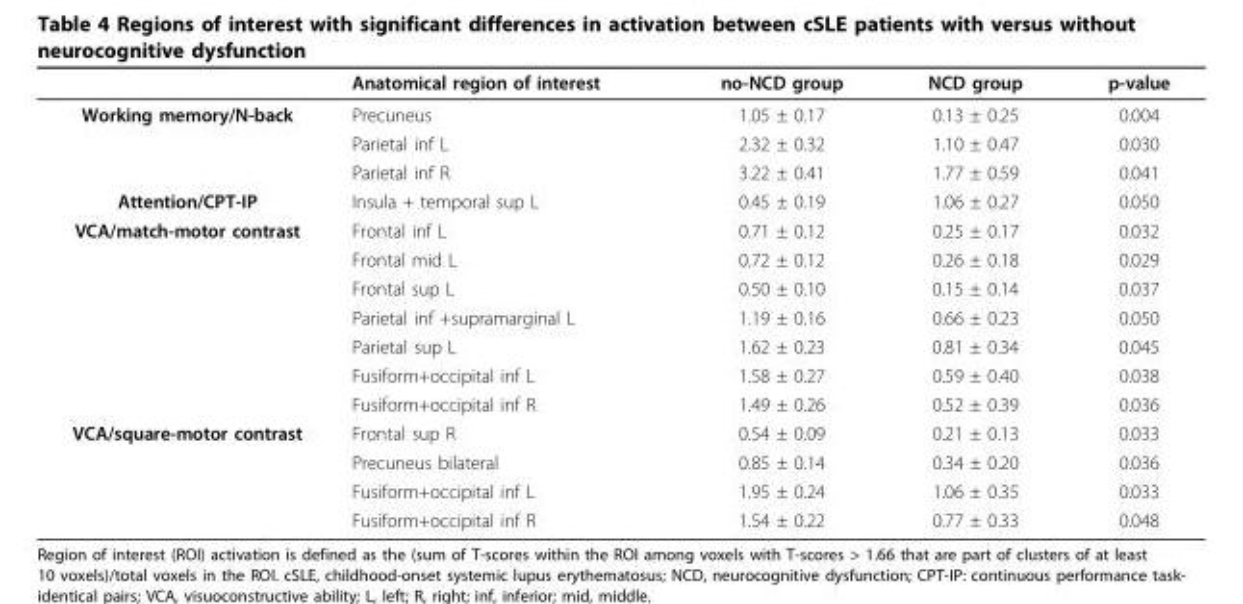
<table><thead><tr><td></td><td>Anatomical region of interest</td><td>no-NCD group</td><td>NCD group</td><td>p-value</td></tr></thead><tbody><tr><td rowspan="3">Working memory/N-back</td><td>Precuneus</td><td>1.05 ± 0.17</td><td>0.13 ± 0.25</td><td>0.004</td></tr><tr><td>Parietal inf L</td><td>2.32 ± 0.32</td><td>1.10 ± 0.47</td><td>0.030</td></tr><tr><td>Parietal inf R</td><td>3.22 ± 0.41</td><td>1.77 ± 0.59</td><td>0.041</td></tr><tr><td>Attention/CPT-IP</td><td>Insula + temporal sup L</td><td>0.45 ± 0.19</td><td>1.06 ± 0.27</td><td>0.050</td></tr><tr><td rowspan="7">VCA/match-motor contrast</td><td>Frontal inf L</td><td>0.71 ± 0.12</td><td>0.25 ± 0.17</td><td>0.032</td></tr><tr><td>Frontal mid L</td><td>0.72 ± 0.12</td><td>0.26 ± 0.18</td><td>0.029</td></tr><tr><td>Frontal sup L</td><td>0.50 ± 0.10</td><td>0.15 ± 0.14</td><td>0.037</td></tr><tr><td>Parietal inf +supramarginal L</td><td>1.19 ± 0.16</td><td>0.66 ± 0.23</td><td>0.050</td></tr><tr><td>Parietal sup L</td><td>1.62 ± 0.23</td><td>0.81 ± 0.34</td><td>0.045</td></tr><tr><td>Fusiform+occipital inf L</td><td>1.58 ± 0.27</td><td>0.59 ± 0.40</td><td>0.038</td></tr><tr><td>Fusiform+occipital inf R</td><td>1.49 ± 0.26</td><td>0.52 ± 0.39</td><td>0.036</td></tr><tr><td rowspan="4">VCA/square-motor contrast</td><td>Frontal sup R</td><td>0.54 ± 0.09</td><td>0.21 ± 0.13</td><td>0.033</td></tr><tr><td>Precuneus bilateral</td><td>0.85 ± 0.14</td><td>0.34 ± 0.20</td><td>0.036</td></tr><tr><td>Fusiform+occipital inf L</td><td>1.95 ± 0.24</td><td>1.06 ± 0.35</td><td>0.033</td></tr><tr><td>Fusiform+occipital inf R</td><td>1.54 ± 0.22</td><td>0.77 ± 0.33</td><td>0.048</td></tr></tbody></table>